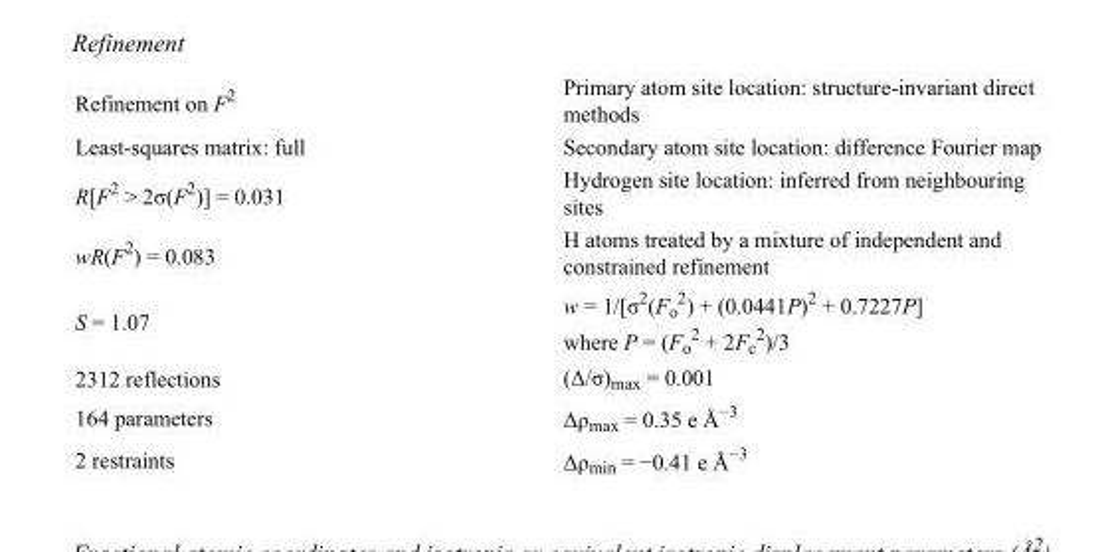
<table><tbody><tr><td>Refinement on F<sup>2</sup></td><td>Primary atom site location: structure-invariant direct methods</td></tr><tr><td>Least-squares matrix: full</td><td>Secondary atom site location: difference Fourier map</td></tr><tr><td>R[F<sup>2</sup> &gt; 2σ(F<sup>2</sup>)] = 0.031</td><td>Hydrogen site location: inferred from neighbouring sites</td></tr><tr><td>wR(F<sup>2</sup>) = 0.083</td><td>H atoms treated by a mixture of independent and constrained refinement</td></tr><tr><td>S = 1.07</td><td>w = 1/[σ<sup>2</sup>(F<sub>o</sub> <sup>2</sup>) + (0.0441P)<sup>2</sup> + 0.7227P] where P = (F<sub>o</sub> <sup>2</sup> + 2F<sub>c</sub> <sup>2</sup>)/3</td></tr><tr><td>2312 reflections</td><td>(Δ/σ)<sub>max</sub> = 0.001</td></tr><tr><td>164 parameters</td><td>Δρ<sub>max</sub> = 0.35 e Å<sup>−3</sup></td></tr><tr><td>2 restraints</td><td>Δρ<sub>min</sub> = −0.41 e Å<sup>−3</sup></td></tr></tbody></table>